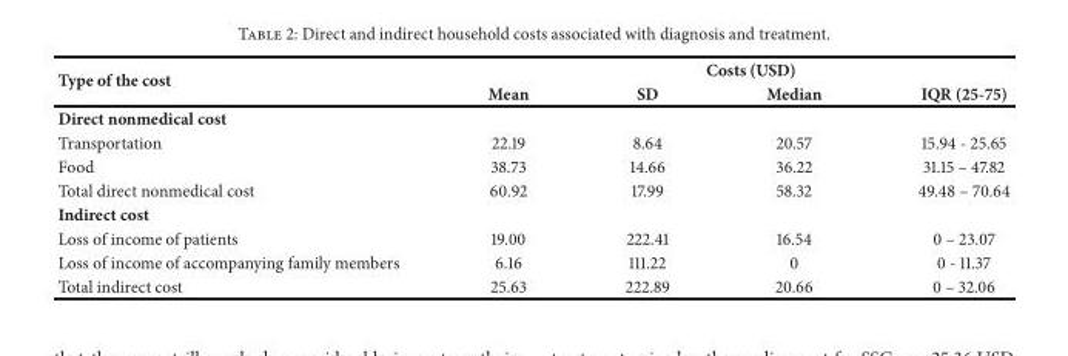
<table><thead><tr><td rowspan="2">Type of the cost</td><td colspan="4">Costs (USD)</td></tr><tr><td>Mean</td><td>SD</td><td>Median</td><td>IQR (25-75)</td></tr></thead><tbody><tr><td colspan="5">Direct nonmedical cost</td></tr><tr><td>Transportation</td><td>22.19</td><td>8.64</td><td>20.57</td><td>15.94 - 25.65</td></tr><tr><td>Food</td><td>38.73</td><td>14.66</td><td>36.22</td><td>31.15 – 47.82</td></tr><tr><td>Total direct nonmedical cost</td><td>60.92</td><td>17.99</td><td>58.32</td><td>49.48 – 70.64</td></tr><tr><td colspan="5">Indirect cost</td></tr><tr><td>Loss of income of patients</td><td>19.00</td><td>222.41</td><td>16.54</td><td>0 – 23.07</td></tr><tr><td>Loss of income of accompanying family members</td><td>6.16</td><td>111.22</td><td>0</td><td>0 - 11.37</td></tr><tr><td>Total indirect cost</td><td>25.63</td><td>222.89</td><td>20.66</td><td>0 – 32.06</td></tr></tbody></table>